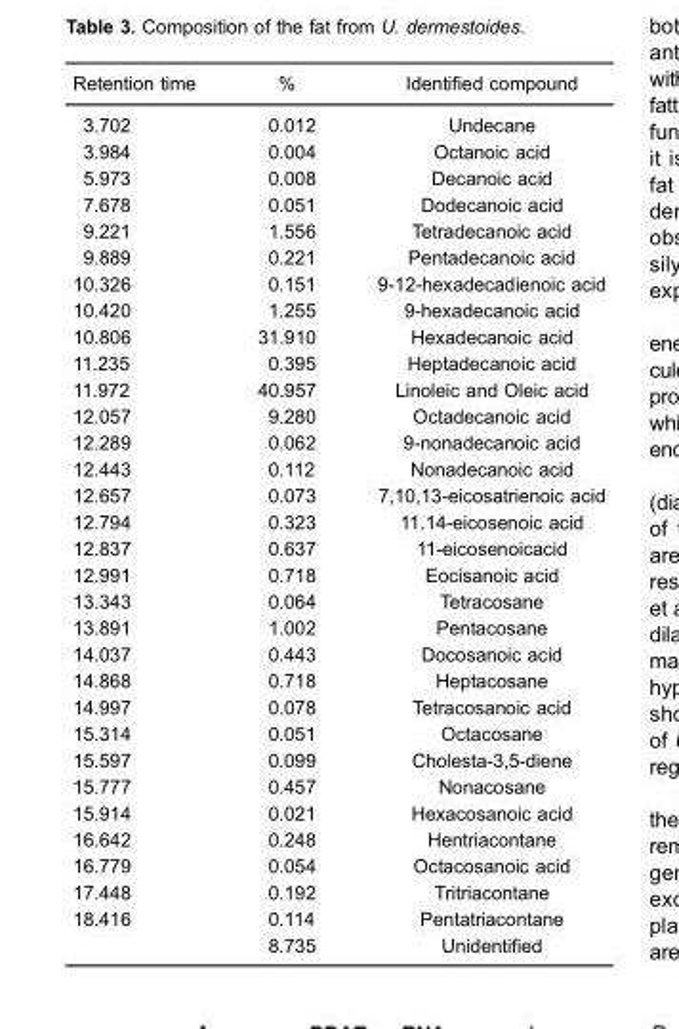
<table><thead><tr><td>Retention time</td><td>%</td><td>Identified compound</td></tr></thead><tbody><tr><td>3.702</td><td>0.012</td><td>Undecane</td></tr><tr><td>3.984</td><td>0.004</td><td>Octanoic acid</td></tr><tr><td>5.973</td><td>0.008</td><td>Decanoic acid</td></tr><tr><td>7.678</td><td>0.051</td><td>Dodecanoic acid</td></tr><tr><td>9.221</td><td>1.556</td><td>Tetradecanoic acid</td></tr><tr><td>9.889</td><td>0.221</td><td>Pentadecanoic acid</td></tr><tr><td>10.326</td><td>0.151</td><td>9-12-hexadecadienoic acid</td></tr><tr><td>10.420</td><td>1.255</td><td>9-hexadecanoic acid</td></tr><tr><td>10.806</td><td>31.910</td><td>Hexadecanoic acid</td></tr><tr><td>11.235</td><td>0.395</td><td>Heptadecanoic acid</td></tr><tr><td>11.972</td><td>40.957</td><td>Linoleic and Oleic acid</td></tr><tr><td>12.057</td><td>9.280</td><td>Octadecanoic acid</td></tr><tr><td>12.289</td><td>0.062</td><td>9-nonadecanoic acid</td></tr><tr><td>12.443</td><td>0.112</td><td>Nonadecanoic acid</td></tr><tr><td>12.657</td><td>0.073</td><td>7,10,13-eicosatrienoic acid</td></tr><tr><td>12.794</td><td>0.323</td><td>11.14-eicosenoic acid</td></tr><tr><td>12.837</td><td>0.637</td><td>11-eicosenoicacid</td></tr><tr><td>12.991</td><td>0.718</td><td>Eocisanoic acid</td></tr><tr><td>13.343</td><td>0.064</td><td>Tetracosane</td></tr><tr><td>13.891</td><td>1.002</td><td>Pentacosane</td></tr><tr><td>14.037</td><td>0.443</td><td>Docosanoic acid</td></tr><tr><td>14.868</td><td>0.718</td><td>Heptacosane</td></tr><tr><td>14.997</td><td>0.078</td><td>Tetracosanoic acid</td></tr><tr><td>15.314</td><td>0.051</td><td>Octacosane</td></tr><tr><td>15.597</td><td>0.099</td><td>Cholesta-3,5-diene</td></tr><tr><td>15.777</td><td>0.457</td><td>Nonacosane</td></tr><tr><td>15.914</td><td>0.021</td><td>Hexacosanoic acid</td></tr><tr><td>16.642</td><td>0.248</td><td>Hentriacontane</td></tr><tr><td>16.779</td><td>0.054</td><td>Octacosanoic acid</td></tr><tr><td>17.448</td><td>0.192</td><td>Tritriacontane</td></tr><tr><td rowspan="2">18.416</td><td>0.114</td><td>Pentatriacontane</td></tr><tr><td>8.735</td><td>Unidentified</td></tr></tbody></table>